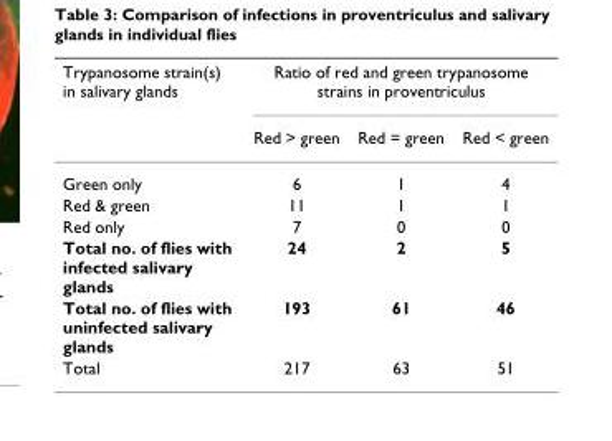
<table><thead><tr><td rowspan="2">Trypanosome strain(s) in salivary glands</td><td colspan="3">Ratio of red and green trypanosome strains in proventriculus</td></tr><tr><td>Red &gt; green</td><td>Red = green</td><td>Red &lt; green</td></tr></thead><tbody><tr><td>Green only</td><td>6</td><td>1</td><td>4</td></tr><tr><td>Red &amp; green</td><td>11</td><td>1</td><td>1</td></tr><tr><td>Red only</td><td>7</td><td>0</td><td>0</td></tr><tr><td>Total no. of flies with infected salivary glands</td><td>24</td><td>2</td><td>5</td></tr><tr><td>Total no. of flies with uninfected salivary glands</td><td>193</td><td>61</td><td>46</td></tr><tr><td>Total</td><td>217</td><td>63</td><td>51</td></tr></tbody></table>